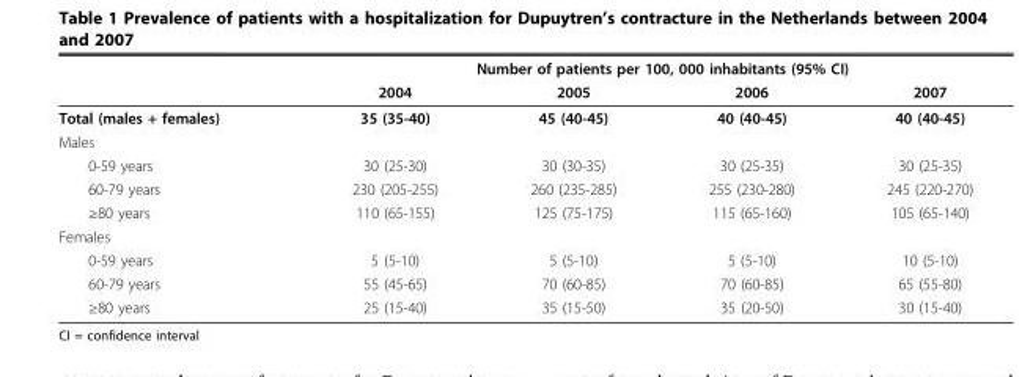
<table><thead><tr><td rowspan="2"></td><td colspan="4">Number of patients per 100, 000 inhabitants (95% CI)</td></tr><tr><td>2004</td><td>2005</td><td>2006</td><td>2007</td></tr></thead><tbody><tr><td>Total (males + females)</td><td>35 (35-40)</td><td>45 (40-45)</td><td>40 (40-45)</td><td>40 (40-45)</td></tr><tr><td colspan="5">Males</td></tr><tr><td>0-59 years</td><td>30 (25-30)</td><td>30 (30-35)</td><td>30 (25-35)</td><td>30 (25-35)</td></tr><tr><td>60-79 years</td><td>230 (205-255)</td><td>260 (235-285)</td><td>255 (230-280)</td><td>245 (220-270)</td></tr><tr><td>≥80 years</td><td>110 (65-155)</td><td>125 (75-175)</td><td>115 (65-160)</td><td>105 (65-140)</td></tr><tr><td colspan="5">Females</td></tr><tr><td>0-59 years</td><td>5 (5-10)</td><td>5 (5-10)</td><td>5 (5-10)</td><td>10 (5-10)</td></tr><tr><td>60-79 years</td><td>55 (45-65)</td><td>70 (60-85)</td><td>70 (60-85)</td><td>65 (55-80)</td></tr><tr><td>≥80 years</td><td>25 (15-40)</td><td>35 (15-50)</td><td>35 (20-50)</td><td>30 (15-40)</td></tr></tbody></table>